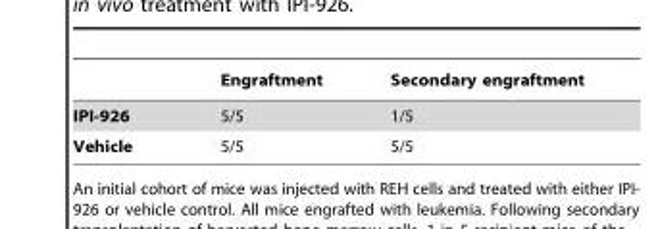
<table><thead><tr><td></td><td>Engraftment</td><td>Secondary engraftment</td></tr></thead><tbody><tr><td>IPI-926</td><td>5/5</td><td>1/5</td></tr><tr><td>Vehicle</td><td>5/5</td><td>5/5</td></tr></tbody></table>